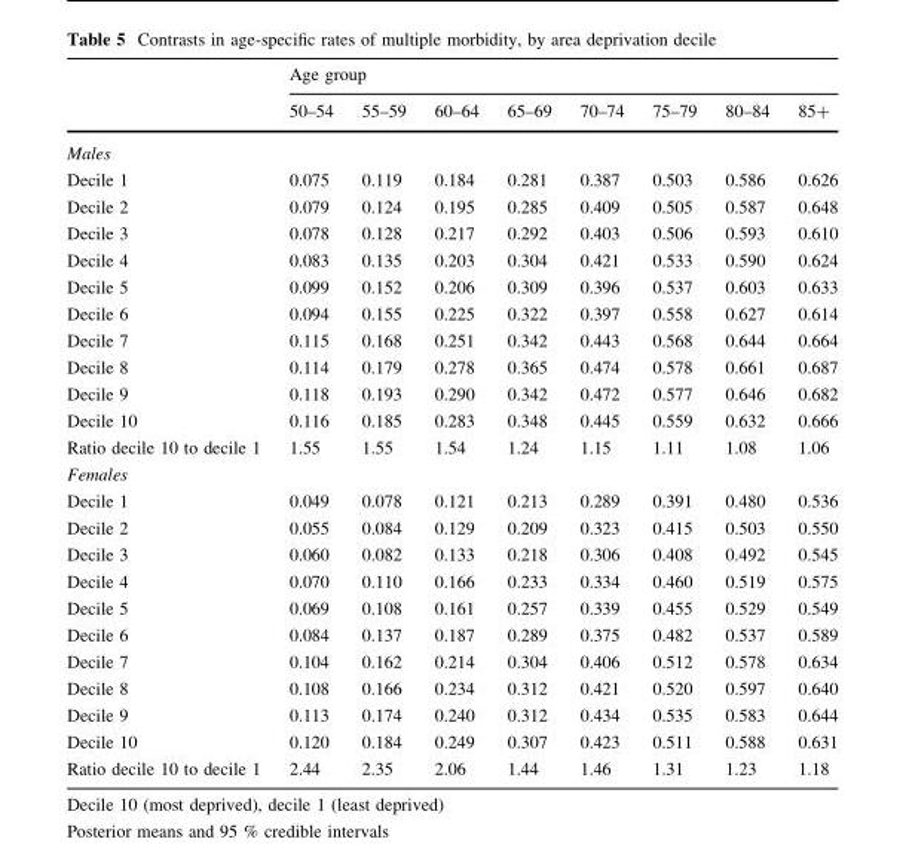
<table><thead><tr><td rowspan="2"></td><td colspan="8">Age group</td></tr><tr><td>50–54</td><td>55–59</td><td>60–64</td><td>65–69</td><td>70–74</td><td>75–79</td><td>80–84</td><td>85+</td></tr></thead><tbody><tr><td colspan="9">Males</td></tr><tr><td>Decile 1</td><td>0.075</td><td>0.119</td><td>0.184</td><td>0.281</td><td>0.387</td><td>0.503</td><td>0.586</td><td>0.626</td></tr><tr><td>Decile 2</td><td>0.079</td><td>0.124</td><td>0.195</td><td>0.285</td><td>0.409</td><td>0.505</td><td>0.587</td><td>0.648</td></tr><tr><td>Decile 3</td><td>0.078</td><td>0.128</td><td>0.217</td><td>0.292</td><td>0.403</td><td>0.506</td><td>0.593</td><td>0.610</td></tr><tr><td>Decile 4</td><td>0.083</td><td>0.135</td><td>0.203</td><td>0.304</td><td>0.421</td><td>0.533</td><td>0.590</td><td>0.624</td></tr><tr><td>Decile 5</td><td>0.099</td><td>0.152</td><td>0.206</td><td>0.309</td><td>0.396</td><td>0.537</td><td>0.603</td><td>0.633</td></tr><tr><td>Decile 6</td><td>0.094</td><td>0.155</td><td>0.225</td><td>0.322</td><td>0.397</td><td>0.558</td><td>0.627</td><td>0.614</td></tr><tr><td>Decile 7</td><td>0.115</td><td>0.168</td><td>0.251</td><td>0.342</td><td>0.443</td><td>0.568</td><td>0.644</td><td>0.664</td></tr><tr><td>Decile 8</td><td>0.114</td><td>0.179</td><td>0.278</td><td>0.365</td><td>0.474</td><td>0.578</td><td>0.661</td><td>0.687</td></tr><tr><td>Decile 9</td><td>0.118</td><td>0.193</td><td>0.290</td><td>0.342</td><td>0.472</td><td>0.577</td><td>0.646</td><td>0.682</td></tr><tr><td>Decile 10</td><td>0.116</td><td>0.185</td><td>0.283</td><td>0.348</td><td>0.445</td><td>0.559</td><td>0.632</td><td>0.666</td></tr><tr><td>Ratio decile 10 to decile 1</td><td>1.55</td><td>1.55</td><td>1.54</td><td>1.24</td><td>1.15</td><td>1.11</td><td>1.08</td><td>1.06</td></tr><tr><td colspan="9">Females</td></tr><tr><td>Decile 1</td><td>0.049</td><td>0.078</td><td>0.121</td><td>0.213</td><td>0.289</td><td>0.391</td><td>0.480</td><td>0.536</td></tr><tr><td>Decile 2</td><td>0.055</td><td>0.084</td><td>0.129</td><td>0.209</td><td>0.323</td><td>0.415</td><td>0.503</td><td>0.550</td></tr><tr><td>Decile 3</td><td>0.060</td><td>0.082</td><td>0.133</td><td>0.218</td><td>0.306</td><td>0.408</td><td>0.492</td><td>0.545</td></tr><tr><td>Decile 4</td><td>0.070</td><td>0.110</td><td>0.166</td><td>0.233</td><td>0.334</td><td>0.460</td><td>0.519</td><td>0.575</td></tr><tr><td>Decile 5</td><td>0.069</td><td>0.108</td><td>0.161</td><td>0.257</td><td>0.339</td><td>0.455</td><td>0.529</td><td>0.549</td></tr><tr><td>Decile 6</td><td>0.084</td><td>0.137</td><td>0.187</td><td>0.289</td><td>0.375</td><td>0.482</td><td>0.537</td><td>0.589</td></tr><tr><td>Decile 7</td><td>0.104</td><td>0.162</td><td>0.214</td><td>0.304</td><td>0.406</td><td>0.512</td><td>0.578</td><td>0.634</td></tr><tr><td>Decile 8</td><td>0.108</td><td>0.166</td><td>0.234</td><td>0.312</td><td>0.421</td><td>0.520</td><td>0.597</td><td>0.640</td></tr><tr><td>Decile 9</td><td>0.113</td><td>0.174</td><td>0.240</td><td>0.312</td><td>0.434</td><td>0.535</td><td>0.583</td><td>0.644</td></tr><tr><td>Decile 10</td><td>0.120</td><td>0.184</td><td>0.249</td><td>0.307</td><td>0.423</td><td>0.511</td><td>0.588</td><td>0.631</td></tr><tr><td>Ratio decile 10 to decile 1</td><td>2.44</td><td>2.35</td><td>2.06</td><td>1.44</td><td>1.46</td><td>1.31</td><td>1.23</td><td>1.18</td></tr></tbody></table>